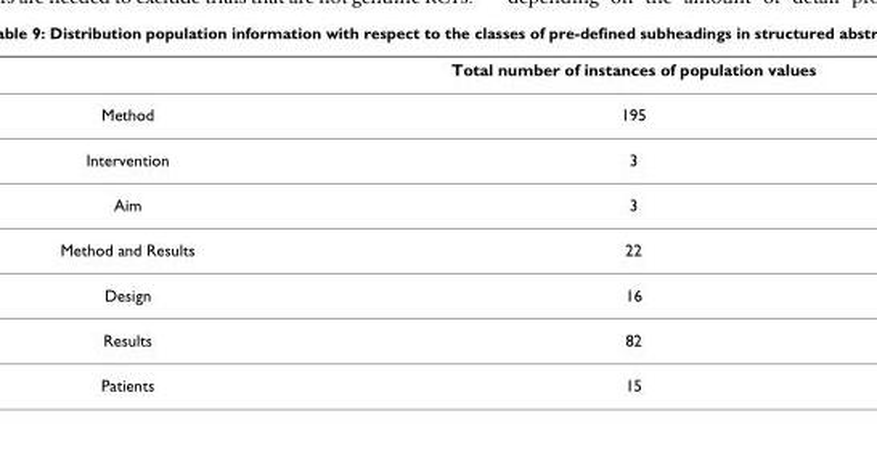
<table><thead><tr><td></td><td>Total number of instances of population values</td></tr></thead><tbody><tr><td>Method</td><td>195</td></tr><tr><td>Intervention</td><td>3</td></tr><tr><td>Aim</td><td>3</td></tr><tr><td>Method and Results</td><td>22</td></tr><tr><td>Design</td><td>16</td></tr><tr><td>Results</td><td>82</td></tr><tr><td>Patients</td><td>15</td></tr></tbody></table>